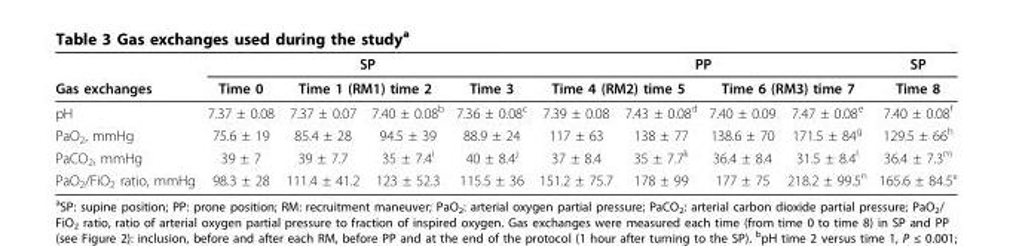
<table><thead><tr><td rowspan="3">Gas exchanges pH</td><td colspan="4">SP</td><td colspan="4">PP</td><td rowspan="3">SP Time 8 7.40 ± 0.08<sup>f</sup></td></tr><tr><td rowspan="2">Time 0 7.37 ± 0.08</td><td colspan="2">Time 1 (RM1) time 2</td><td rowspan="2">Time 3 7.36 ± 0.08<sup>c</sup></td><td colspan="2">Time 4 (RM2) time 5</td><td colspan="2">Time 6 (RM3) time 7</td></tr><tr><td>7.37 ± 0.07</td><td>7.40 ± 0.08<sup>b</sup></td><td>7.39 ± 0.08</td><td>7.43 ± 0.08<sup>d</sup></td><td>7.40 ± 0.09</td><td>7.47 ± 0.08<sup>e</sup></td></tr></thead><tbody><tr><td>PaO<sub>2</sub>, mmHg</td><td>75.6 ± 19</td><td>85.4 ± 28</td><td>94.5 ± 39</td><td>88.9 ± 24</td><td>117 ± 63</td><td>138 ± 77</td><td>138.6 ± 70</td><td>171.5 ± 84<sup>g</sup></td><td>129.5 ± 66<sup>h</sup></td></tr><tr><td>PaCO<sub>2</sub>, mmHg</td><td>39 ± 7</td><td>39 ± 7.7</td><td>35 ± 7.4<sup>i</sup></td><td>40 ± 8.4<sup>j</sup></td><td>37 ± 8.4</td><td>35 ± 7.7<sup>k</sup></td><td>36.4 ± 8.4</td><td>31.5 ± 8.4<sup>l</sup></td><td>36.4 ± 7.3<sup>m</sup></td></tr><tr><td>PaO<sub>2</sub>/FiO<sub>2</sub> ratio, mmHg</td><td>98.3 ± 28</td><td>111.4 ± 41.2</td><td>123 ± 52.3</td><td>115.5 ± 36</td><td>151.2 ± 75.7</td><td>178 ± 99</td><td>177 ± 75</td><td>218.2 ± 99.5<sup>n</sup></td><td>165.6 ± 84.5°</td></tr></tbody></table>